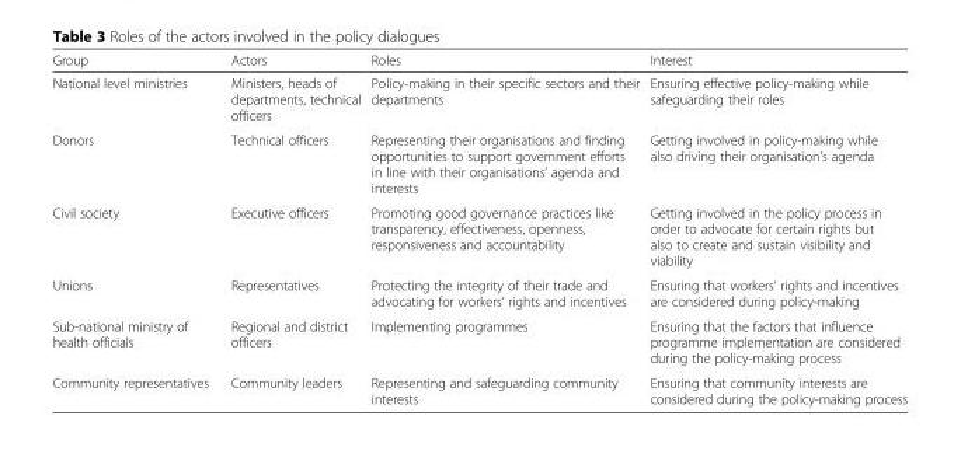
<table><thead><tr><td>Group</td><td>Actors</td><td>Roles</td><td>Interest</td></tr></thead><tbody><tr><td>National level ministries</td><td>Ministers, heads of departments, technical officers</td><td>Policy-making in their specific sectors and their departments</td><td>Ensuring effective policy-making while safeguarding their roles</td></tr><tr><td>Donors</td><td>Technical officers</td><td>Representing their organisations and finding opportunities to support government efforts in line with their organisations’ agenda and interests</td><td>Getting involved in policy-making while also driving their organisation’s agenda</td></tr><tr><td>Civil society</td><td>Executive officers</td><td>Promoting good governance practices like transparency, effectiveness, openness, responsiveness and accountability</td><td>Getting involved in the policy process in order to advocate for certain rights but also to create and sustain visibility and viability</td></tr><tr><td>Unions</td><td>Representatives</td><td>Protecting the integrity of their trade and advocating for workers’ rights and incentives</td><td>Ensuring that workers’ rights and incentives are considered during policy-making</td></tr><tr><td>Sub-national ministry of health officials</td><td>Regional and district officers</td><td>Implementing programmes</td><td>Ensuring that the factors that influence programme implementation are considered during the policy-making process</td></tr><tr><td>Community representatives</td><td>Community leaders</td><td>Representing and safeguarding community interests</td><td>Ensuring that community interests are considered during the policy-making process</td></tr></tbody></table>